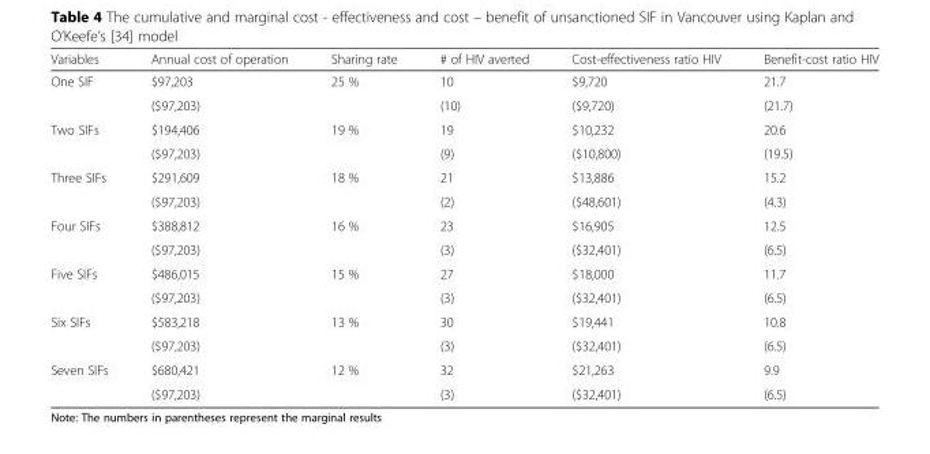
<table><thead><tr><td>Variables</td><td>Annual cost of operation</td><td>Sharing rate</td><td># of HIV averted</td><td>Cost-effectiveness ratio HIV</td><td>Benefit-cost ratio HIV</td></tr></thead><tbody><tr><td rowspan="2">One SIF</td><td>$97,203</td><td>25 %</td><td>10</td><td>$9,720</td><td>21.7</td></tr><tr><td>($97,203)</td><td></td><td>(10)</td><td>($9,720)</td><td>(21.7)</td></tr><tr><td rowspan="2">Two SIFs</td><td>$194,406</td><td>19 %</td><td>19</td><td>$10,232</td><td>20.6</td></tr><tr><td>($97,203)</td><td></td><td>(9)</td><td>($10,800)</td><td>(19.5)</td></tr><tr><td rowspan="2">Three SIFs</td><td>$291,609</td><td>18 %</td><td>21</td><td>$13,886</td><td>15.2</td></tr><tr><td>($97,203)</td><td></td><td>(2)</td><td>($48,601)</td><td>(4.3)</td></tr><tr><td rowspan="2">Four SIFs</td><td>$388,812</td><td>16 %</td><td>23</td><td>$16,905</td><td>12.5</td></tr><tr><td>($97,203)</td><td></td><td>(3)</td><td>($32,401)</td><td>(6.5)</td></tr><tr><td rowspan="2">Five SIFs</td><td>$486,015</td><td>15 %</td><td>27</td><td>$18,000</td><td>11.7</td></tr><tr><td>($97,203)</td><td></td><td>(3)</td><td>($32,401)</td><td>(6.5)</td></tr><tr><td rowspan="2">Six SIFs</td><td>$583,218</td><td>13 %</td><td>30</td><td>$19,441</td><td>10.8</td></tr><tr><td>($97,203)</td><td></td><td>(3)</td><td>($32,401)</td><td>(6.5)</td></tr><tr><td rowspan="2">Seven SIFs</td><td>$680,421</td><td>12 %</td><td>32</td><td>$21,263</td><td>9.9</td></tr><tr><td>($97,203)</td><td></td><td>(3)</td><td>($32,401)</td><td>(6.5)</td></tr></tbody></table>